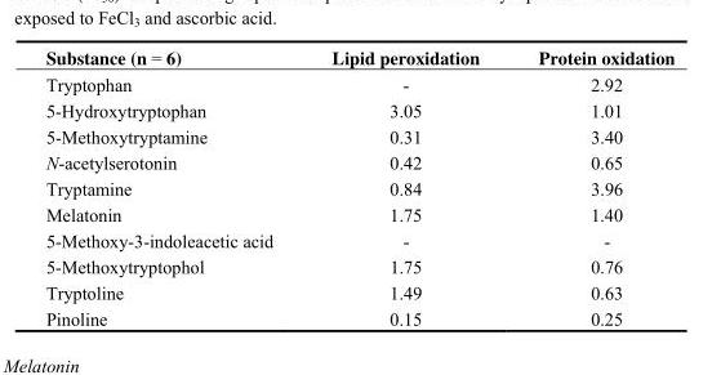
<table><thead><tr><td>Substance (n = 6)</td><td>Lipid peroxidation</td><td>Protein oxidation</td></tr></thead><tbody><tr><td>Tryptophan</td><td>-</td><td>2.92</td></tr><tr><td>5-Hydroxytryptophan</td><td>3.05</td><td>1.01</td></tr><tr><td>5-Methoxytryptamine</td><td>0.31</td><td>3.40</td></tr><tr><td>N-acetylserotonin</td><td>0.42</td><td>0.65</td></tr><tr><td>Tryptamine</td><td>0.84</td><td>3.96</td></tr><tr><td>Melatonin</td><td>1.75</td><td>1.40</td></tr><tr><td>5-Methoxy-3-indoleacetic acid</td><td>-</td><td>-</td></tr><tr><td>5-Methoxytryptophol</td><td>1.75</td><td>0.76</td></tr><tr><td>Tryptoline</td><td>1.49</td><td>0.63</td></tr><tr><td>Pinoline</td><td>0.15</td><td>0.25</td></tr></tbody></table>